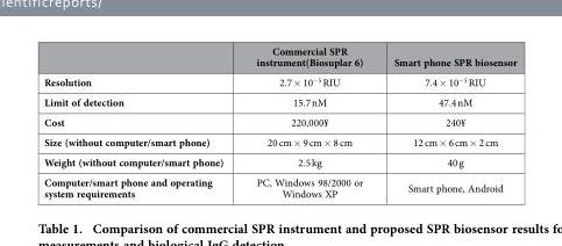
<table><thead><tr><td></td><td>Commercial SPR instrument(Biosuplar 6)</td><td>Smart phone SPR biosensor</td></tr></thead><tbody><tr><td>Resolution</td><td>2.7 × 10<sup>−5</sup> RIU</td><td>7.4 × 10<sup>−5</sup> RIU</td></tr><tr><td>Limit of detection</td><td>15.7 nM</td><td>47.4 nM</td></tr><tr><td>Cost</td><td>220,000¥</td><td>240¥</td></tr><tr><td>Size (without computer/smart phone)</td><td>20 cm × 9 cm × 8 cm</td><td>12 cm × 6 cm × 2 cm</td></tr><tr><td>Weight (without computer/smart phone)</td><td>2.5 kg</td><td>40 g</td></tr><tr><td>Computer/smart phone and operating system requirements</td><td>PC, Windows 98/2000 or Windows XP</td><td>Smart phone, Android</td></tr></tbody></table>